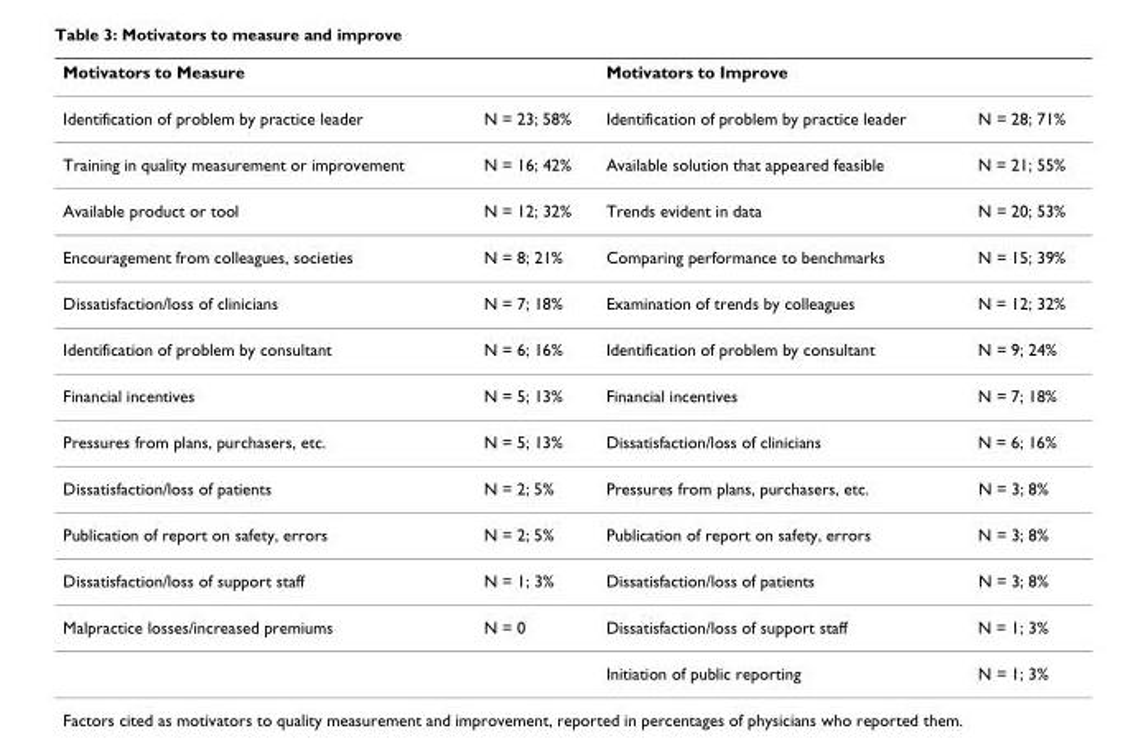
<table><thead><tr><td>Motivators to Measure</td><td></td><td>Motivators to Improve</td><td></td></tr></thead><tbody><tr><td>Identification of problem by practice leader</td><td>N = 23; 58%</td><td>Identification of problem by practice leader</td><td>N = 28; 71%</td></tr><tr><td>Training in quality measurement or improvement</td><td>N = 16; 42%</td><td>Available solution that appeared feasible</td><td>N = 21; 55%</td></tr><tr><td>Available product or tool</td><td>N = 12; 32%</td><td>Trends evident in data</td><td>N = 20; 53%</td></tr><tr><td>Encouragement from colleagues, societies</td><td>N = 8; 21%</td><td>Comparing performance to benchmarks</td><td>N = 15; 39%</td></tr><tr><td>Dissatisfaction/loss of clinicians</td><td>N = 7; 18%</td><td>Examination of trends by colleagues</td><td>N = 12; 32%</td></tr><tr><td>Identification of problem by consultant</td><td>N = 6; 16%</td><td>Identification of problem by consultant</td><td>N = 9; 24%</td></tr><tr><td>Financial incentives</td><td>N = 5; 13%</td><td>Financial incentives</td><td>N = 7; 18%</td></tr><tr><td>Pressures from plans, purchasers, etc.</td><td>N = 5; 13%</td><td>Dissatisfaction/loss of clinicians</td><td>N = 6; 16%</td></tr><tr><td>Dissatisfaction/loss of patients</td><td>N = 2; 5%</td><td>Pressures from plans, purchasers, etc.</td><td>N = 3; 8%</td></tr><tr><td>Publication of report on safety, errors</td><td>N = 2; 5%</td><td>Publication of report on safety, errors</td><td>N = 3; 8%</td></tr><tr><td>Dissatisfaction/loss of support staff</td><td>N = 1; 3%</td><td>Dissatisfaction/loss of patients</td><td>N = 3; 8%</td></tr><tr><td rowspan="2">Malpractice losses/increased premiums</td><td>N = 0</td><td>Dissatisfaction/loss of support staff</td><td>N = 1; 3%</td></tr><tr><td></td><td>Initiation of public reporting</td><td>N = 1; 3%</td></tr></tbody></table>